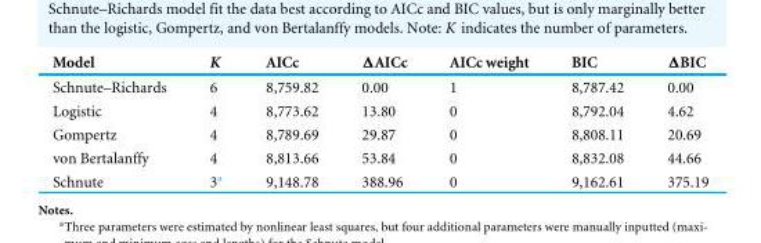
<table><thead><tr><td>Model</td><td>K</td><td>AICc</td><td>ΔAICc</td><td>AICc weight</td><td>BIC</td><td>ΔBIC</td></tr></thead><tbody><tr><td>Schnute–Richards</td><td>6</td><td>8,759.82</td><td>0.00</td><td>1</td><td>8,787.42</td><td>0.00</td></tr><tr><td>Logistic</td><td>4</td><td>8,773.62</td><td>13.80</td><td>0</td><td>8,792.04</td><td>4.62</td></tr><tr><td>Gompertz</td><td>4</td><td>8,789.69</td><td>29.87</td><td>0</td><td>8,808.11</td><td>20.69</td></tr><tr><td>von Bertalanffy</td><td>4</td><td>8,813.66</td><td>53.84</td><td>0</td><td>8,832.08</td><td>44.66</td></tr><tr><td>Schnute</td><td>3<sup>a</sup></td><td>9,148.78</td><td>388.96</td><td>0</td><td>9,162.61</td><td>375.19</td></tr></tbody></table>